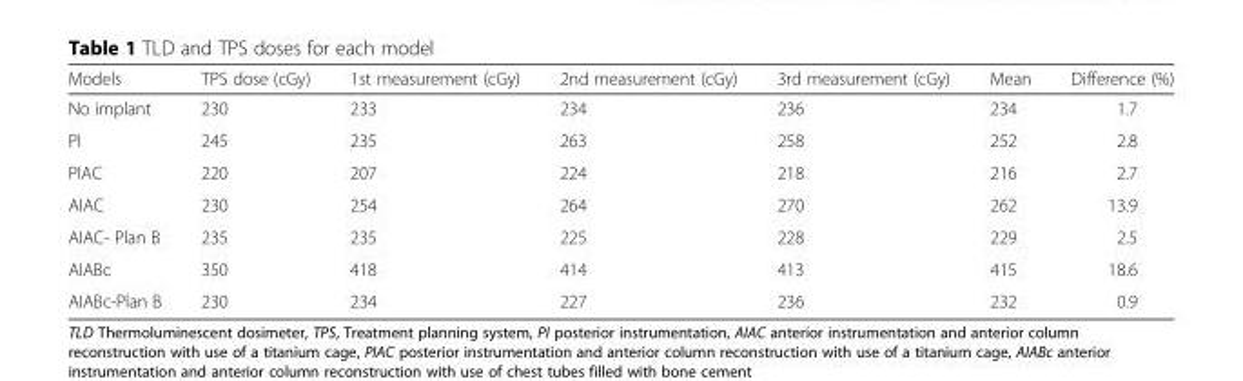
<table><thead><tr><td>Models</td><td>TPS dose (cGy)</td><td>1st measurement (cGy)</td><td>2nd measurement (cGy)</td><td>3rd measurement (cGy)</td><td>Mean</td><td>Difference (%)</td></tr></thead><tbody><tr><td>No implant</td><td>230</td><td>233</td><td>234</td><td>236</td><td>234</td><td>1.7</td></tr><tr><td>PI</td><td>245</td><td>235</td><td>263</td><td>258</td><td>252</td><td>2.8</td></tr><tr><td>PIAC</td><td>220</td><td>207</td><td>224</td><td>218</td><td>216</td><td>2.7</td></tr><tr><td>AIAC</td><td>230</td><td>254</td><td>264</td><td>270</td><td>262</td><td>13.9</td></tr><tr><td>AIAC- Plan B</td><td>235</td><td>235</td><td>225</td><td>228</td><td>229</td><td>2.5</td></tr><tr><td>AIABc</td><td>350</td><td>418</td><td>414</td><td>413</td><td>415</td><td>18.6</td></tr><tr><td>AIABc-Plan B</td><td>230</td><td>234</td><td>227</td><td>236</td><td>232</td><td>0.9</td></tr></tbody></table>